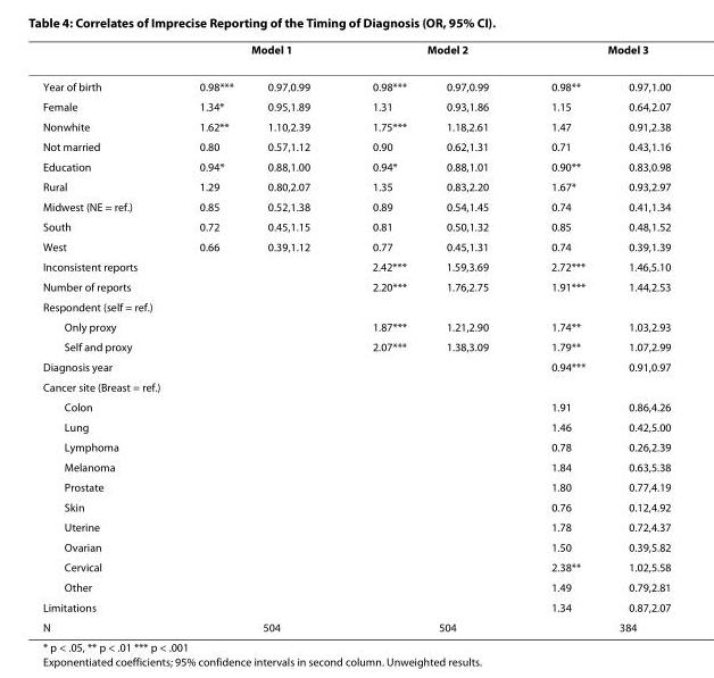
<table><thead><tr><td rowspan="2">Year of birth</td><td colspan="2">Model 1</td><td colspan="2">Model 2</td><td colspan="2">Model 3</td></tr><tr><td>0.98***</td><td>0.97,0.99</td><td>0.98***</td><td>0.97,0.99</td><td>0.98**</td><td>0.97,1.00</td></tr></thead><tbody><tr><td>Female</td><td>1.34*</td><td>0.95,1.89</td><td>1.31</td><td>0.93,1.86</td><td>1.15</td><td>0.64,2.07</td></tr><tr><td>Nonwhite</td><td>1.62**</td><td>1.10,2.39</td><td>1.75***</td><td>1.18,2.61</td><td>1.47</td><td>0.91,2.38</td></tr><tr><td>Not married</td><td>0.80</td><td>0.57,1.12</td><td>0.90</td><td>0.62,1.31</td><td>0.71</td><td>0.43,1.16</td></tr><tr><td>Education</td><td>0.94*</td><td>0.88,1.00</td><td>0.94*</td><td>0.88,1.01</td><td>0.90**</td><td>0.83,0.98</td></tr><tr><td>Rural</td><td>1.29</td><td>0.80,2.07</td><td>1.35</td><td>0.83,2.20</td><td>1.67*</td><td>0.93,2.97</td></tr><tr><td>Midwest (NE = ref.)</td><td>0.85</td><td>0.52,1.38</td><td>0.89</td><td>0.54,1.45</td><td>0.74</td><td>0.41,1.34</td></tr><tr><td>South</td><td>0.72</td><td>0.45,1.15</td><td>0.81</td><td>0.50,1.32</td><td>0.85</td><td>0.48,1.52</td></tr><tr><td>West</td><td>0.66</td><td>0.39,1.12</td><td>0.77</td><td>0.45,1.31</td><td>0.74</td><td>0.39,1.39</td></tr><tr><td>Inconsistent reports</td><td></td><td></td><td>2.42***</td><td>1.59,3.69</td><td>2.72***</td><td>1.46,5.10</td></tr><tr><td>Number of reports</td><td></td><td></td><td>2.20***</td><td>1.76,2.75</td><td>1.91***</td><td>1.44,2.53</td></tr><tr><td colspan="7">Respondent (self = ref.)</td></tr><tr><td>Only proxy</td><td></td><td></td><td>1.87***</td><td>1.21,2.90</td><td>1.74**</td><td>1.03,2.93</td></tr><tr><td>Self and proxy</td><td></td><td></td><td>2.07***</td><td>1.38,3.09</td><td>1.79**</td><td>1.07,2.99</td></tr><tr><td>Diagnosis year</td><td></td><td></td><td></td><td></td><td>0.94***</td><td>0.91,0.97</td></tr><tr><td colspan="7">Cancer site (Breast = ref.)</td></tr><tr><td>Colon</td><td></td><td></td><td></td><td></td><td>1.91</td><td>0.86,4.26</td></tr><tr><td>Lung</td><td></td><td></td><td></td><td></td><td>1.46</td><td>0.42,5.00</td></tr><tr><td>Lymphoma</td><td></td><td></td><td></td><td></td><td>0.78</td><td>0.26,2.39</td></tr><tr><td>Melanoma</td><td></td><td></td><td></td><td></td><td>1.84</td><td>0.63,5.38</td></tr><tr><td>Prostate</td><td></td><td></td><td></td><td></td><td>1.80</td><td>0.77,4.19</td></tr><tr><td>Skin</td><td></td><td></td><td></td><td></td><td>0.76</td><td>0.12,4.92</td></tr><tr><td>Uterine</td><td></td><td></td><td></td><td></td><td>1.78</td><td>0.72,4.37</td></tr><tr><td>Ovarian</td><td></td><td></td><td></td><td></td><td>1.50</td><td>0.39,5.82</td></tr><tr><td>Cervical</td><td></td><td></td><td></td><td></td><td>2.38**</td><td>1.02,5.58</td></tr><tr><td>Other</td><td></td><td></td><td></td><td></td><td>1.49</td><td>0.79,2.81</td></tr><tr><td>Limitations</td><td></td><td></td><td></td><td></td><td>1.34</td><td>0.87,2.07</td></tr><tr><td>N</td><td colspan="2">504</td><td colspan="2">504</td><td colspan="2">384</td></tr></tbody></table>